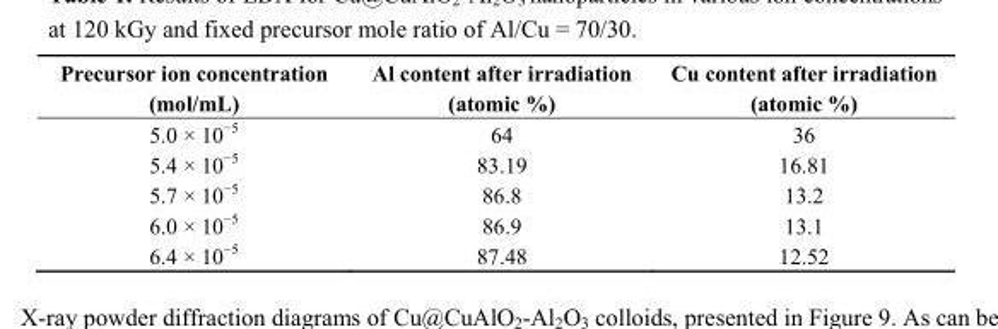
<table><thead><tr><td>Precursor ion concentration (mol/mL)</td><td>Al content after irradiation (atomic %)</td><td>Cu content after irradiation (atomic %)</td></tr></thead><tbody><tr><td>5.0 × 10<sup>−5</sup></td><td>64</td><td>36</td></tr><tr><td>5.4 × 10<sup>−5</sup></td><td>83.19</td><td>16.81</td></tr><tr><td>5.7 × 10<sup>−5</sup></td><td>86.8</td><td>13.2</td></tr><tr><td>6.0 × 10<sup>−5</sup></td><td>86.9</td><td>13.1</td></tr><tr><td>6.4 × 10<sup>−5</sup></td><td>87.48</td><td>12.52</td></tr></tbody></table>